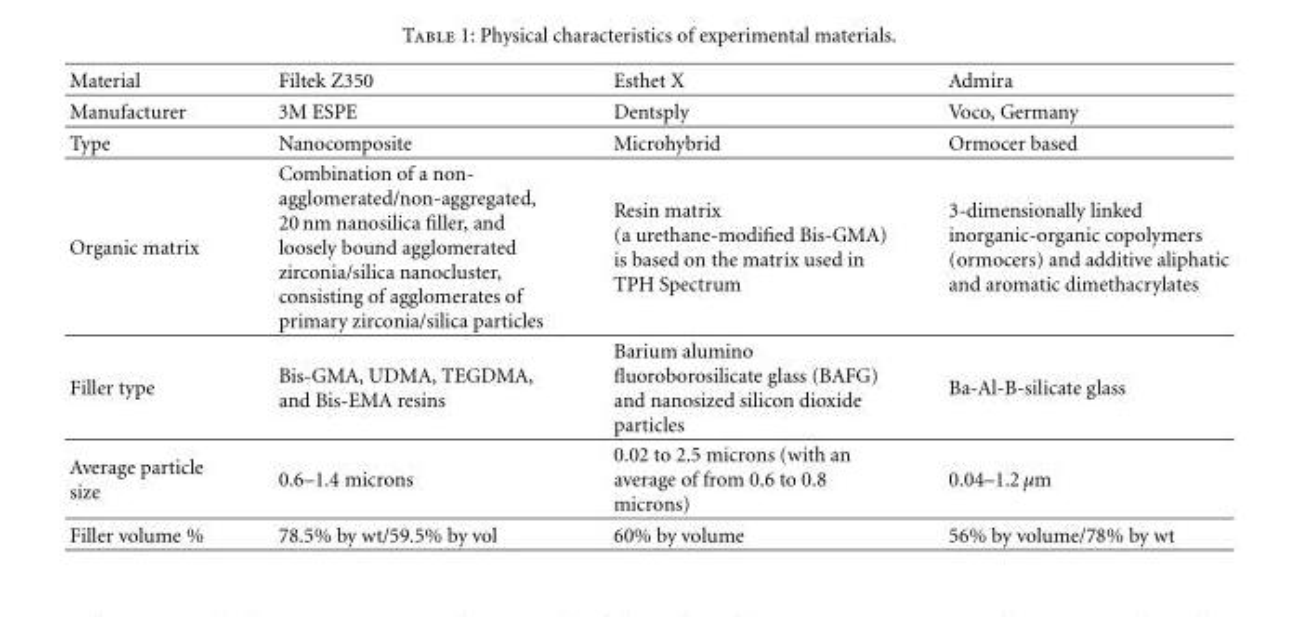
<table><thead><tr><td>Material</td><td>Filtek Z350</td><td>Esthet X</td><td>Admira</td></tr></thead><tbody><tr><td>Manufacturer</td><td>3M ESPE</td><td>Dentsply</td><td>Voco, Germany</td></tr><tr><td>Type</td><td>Nanocomposite</td><td>Microhybrid</td><td>Ormocer based</td></tr><tr><td>Organic matrix</td><td>Combination of a non- agglomerated/non-aggregated, 20 nm nanosilica filler, and loosely bound agglomerated zirconia/silica nanocluster, consisting of agglomerates of primary zirconia/silica particles</td><td>Resin matrix (a urethane-modified Bis-GMA) is based on the matrix used in TPH Spectrum</td><td>3-dimensionally linked inorganic-organic copolymers (ormocers) and additive aliphatic and aromatic dimethacrylates</td></tr><tr><td>Filler type</td><td>Bis-GMA, UDMA, TEGDMA, and Bis-EMA resins</td><td>Barium alumino fluoroborosilicate glass (BAFG) and nanosized silicon dioxide particles</td><td>Ba-Al-B-silicate glass</td></tr><tr><td>Average particle size</td><td>0.6–1.4 microns</td><td>0.02 to 2.5 microns (with an average of from 0.6 to 0.8 microns)</td><td>0.04–1.2 µm</td></tr><tr><td>Filler volume %</td><td>78.5% by wt/59.5% by vol</td><td>60% by volume</td><td>56% by volume/78% by wt</td></tr></tbody></table>